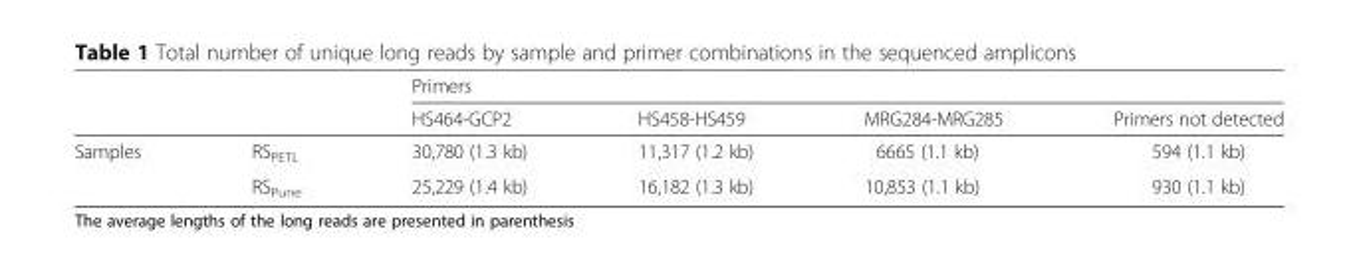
<table><thead><tr><td rowspan="2"></td><td rowspan="2"></td><td colspan="4">Primers</td></tr><tr><td>HS464-GCP2</td><td>HS458-HS459</td><td>MRG284-MRG285</td><td>Primers not detected</td></tr></thead><tbody><tr><td rowspan="2">Samples</td><td>RS<sub>PETL</sub></td><td>30,780 (1.3 kb)</td><td>11,317 (1.2 kb)</td><td>6665 (1.1 kb)</td><td>594 (1.1 kb)</td></tr><tr><td>RS<sub>Pune</sub></td><td>25,229 (1.4 kb)</td><td>16,182 (1.3 kb)</td><td>10,853 (1.1 kb)</td><td>930 (1.1 kb)</td></tr></tbody></table>